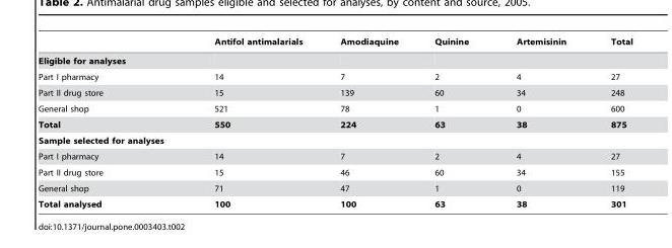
<table><thead><tr><td></td><td>Antifol antimalarials</td><td>Amodiaquine</td><td>Quinine</td><td>Artemisinin</td><td>Total</td></tr></thead><tbody><tr><td colspan="6">Eligible for analyses</td></tr><tr><td>Part I pharmacy</td><td>14</td><td>7</td><td>2</td><td>4</td><td>27</td></tr><tr><td>Part II drug store</td><td>15</td><td>139</td><td>60</td><td>34</td><td>248</td></tr><tr><td>General shop</td><td>521</td><td>78</td><td>1</td><td>0</td><td>600</td></tr><tr><td>Total</td><td>550</td><td>224</td><td>63</td><td>38</td><td>875</td></tr><tr><td colspan="6">Sample selected for analyses</td></tr><tr><td>Part I pharmacy</td><td>14</td><td>7</td><td>2</td><td>4</td><td>27</td></tr><tr><td>Part II drug store</td><td>15</td><td>46</td><td>60</td><td>34</td><td>155</td></tr><tr><td>General shop</td><td>71</td><td>47</td><td>1</td><td>0</td><td>119</td></tr><tr><td>Total analysed</td><td>100</td><td>100</td><td>63</td><td>38</td><td>301</td></tr></tbody></table>